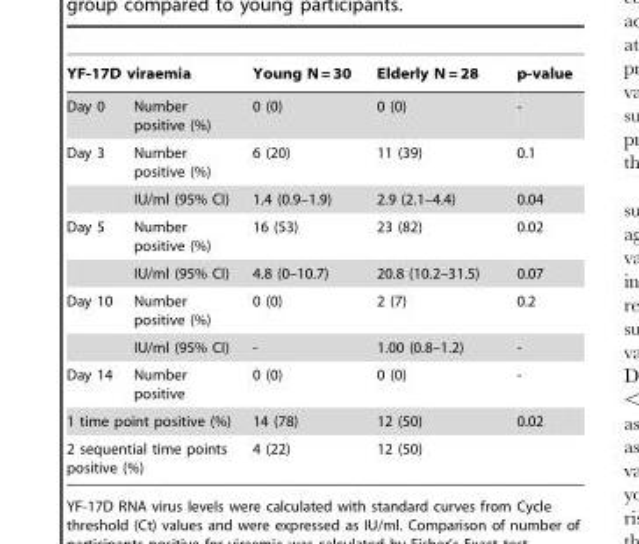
<table><thead><tr><td colspan="2">YF-17D viraemia</td><td rowspan="2">Young N = 30 0 (0)</td><td rowspan="2">Elderly N = 28 0 (0)</td><td rowspan="2">p-value -</td></tr><tr><td>Day 0</td><td>Number positive (%)</td></tr></thead><tbody><tr><td rowspan="2">Day 3</td><td>Number positive (%)</td><td>6 (20)</td><td>11 (39)</td><td>0.1</td></tr><tr><td>IU/ml (95% CI)</td><td>1.4 (0.9–1.9)</td><td>2.9 (2.1–4.4)</td><td>0.04</td></tr><tr><td rowspan="2">Day 5</td><td>Number positive (%)</td><td>16 (53)</td><td>23 (82)</td><td>0.02</td></tr><tr><td>IU/ml (95% CI)</td><td>4.8 (0–10.7)</td><td>20.8 (10.2–31.5)</td><td>0.07</td></tr><tr><td rowspan="2">Day 10</td><td>Number positive (%)</td><td>0 (0)</td><td>2 (7)</td><td>0.2</td></tr><tr><td>IU/ml (95% CI)</td><td>-</td><td>1.00 (0.8–1.2)</td><td>-</td></tr><tr><td>Day 14</td><td>Number positive</td><td>0 (0)</td><td>0 (0)</td><td>-</td></tr><tr><td colspan="2">1 time point positive (%)</td><td>14 (78)</td><td>12 (50)</td><td>0.02</td></tr><tr><td colspan="2">2 sequential time points positive (%)</td><td>4 (22)</td><td>12 (50)</td><td></td></tr></tbody></table>